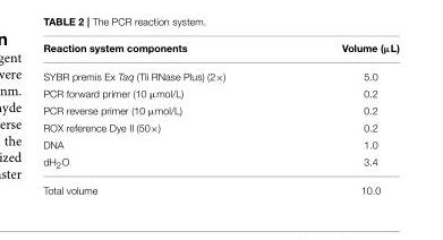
<table><thead><tr><td>Reaction system components</td><td>Volume (µL)</td></tr></thead><tbody><tr><td>SYBR premis Ex Taq (Tli RNase Plus) (2×)</td><td>5.0</td></tr><tr><td>PCR forward primer (10 µmol/L)</td><td>0.2</td></tr><tr><td>PCR reverse primer (10 µmol/L)</td><td>0.2</td></tr><tr><td>ROX reference Dye II (50×)</td><td>0.2</td></tr><tr><td>DNA</td><td>1.0</td></tr><tr><td>dH<sub>2</sub>O</td><td>3.4</td></tr><tr><td>Total volume</td><td>10.0</td></tr></tbody></table>